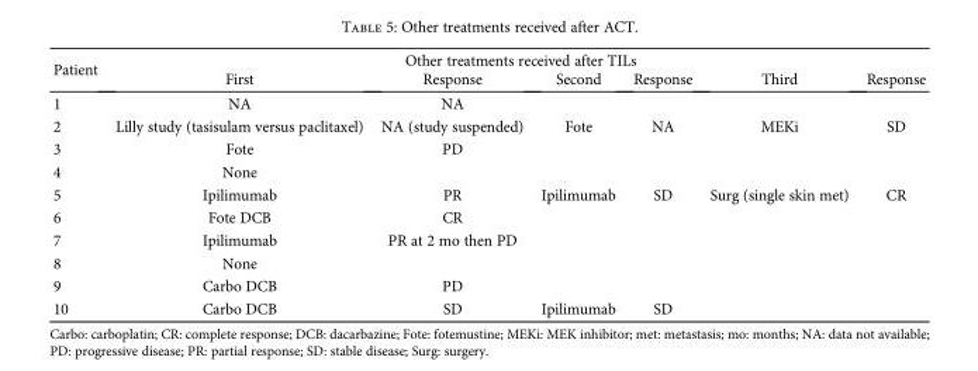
<table><thead><tr><td rowspan="2">Patient</td><td colspan="6">Other treatments received after TILs</td></tr><tr><td>First</td><td>Response</td><td>Second</td><td>Response</td><td>Third</td><td>Response</td></tr></thead><tbody><tr><td>1</td><td>NA</td><td>NA</td><td></td><td></td><td></td><td></td></tr><tr><td>2</td><td>Lilly study (tasisulam versus paclitaxel)</td><td>NA (study suspended)</td><td>Fote</td><td>NA</td><td>MEKi</td><td>SD</td></tr><tr><td>3</td><td>Fote</td><td>PD</td><td></td><td></td><td></td><td></td></tr><tr><td>4</td><td>None</td><td></td><td></td><td></td><td></td><td></td></tr><tr><td>5</td><td>Ipilimumab</td><td>PR</td><td>Ipilimumab</td><td>SD</td><td>Surg (single skin met)</td><td>CR</td></tr><tr><td>6</td><td>Fote DCB</td><td>CR</td><td></td><td></td><td></td><td></td></tr><tr><td>7</td><td>Ipilimumab</td><td>PR at 2 mo then PD</td><td></td><td></td><td></td><td></td></tr><tr><td>8</td><td>None</td><td></td><td></td><td></td><td></td><td></td></tr><tr><td>9</td><td>Carbo DCB</td><td>PD</td><td></td><td></td><td></td><td></td></tr><tr><td>10</td><td>Carbo DCB</td><td>SD</td><td>Ipilimumab</td><td>SD</td><td></td><td></td></tr></tbody></table>